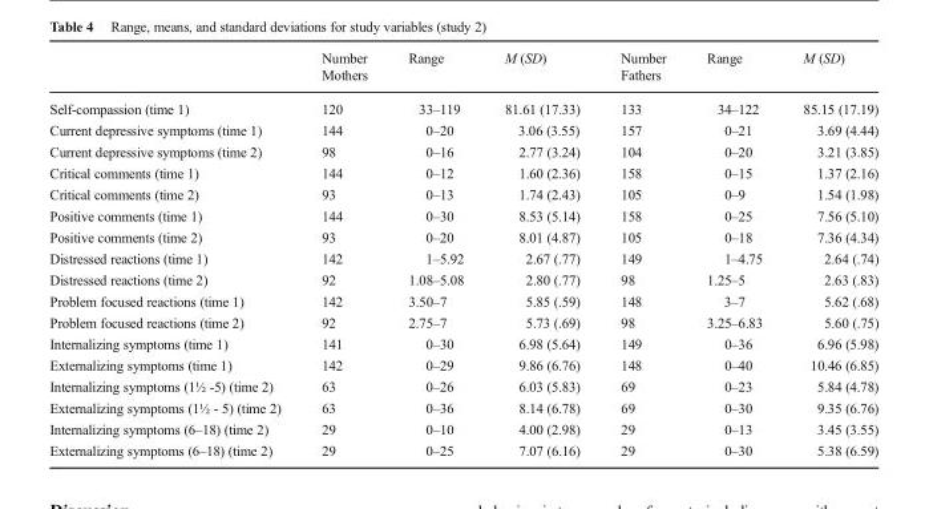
<table><thead><tr><td rowspan="2"></td><td rowspan="2">Number Mothers</td><td rowspan="2">Range</td><td rowspan="2">M (SD)</td><td rowspan="2">Number Fathers</td><td rowspan="2">Range</td><td rowspan="2">M (SD)</td></tr><tr></tr></thead><tbody><tr><td>Self-compassion (time 1)</td><td>120</td><td>33–119</td><td>81.61 (17.33)</td><td>133</td><td>34–122</td><td>85.15 (17.19)</td></tr><tr><td>Current depressive symptoms (time 1)</td><td>144</td><td>0–20</td><td>3.06 (3.55)</td><td>157</td><td>0–21</td><td>3.69 (4.44)</td></tr><tr><td>Current depressive symptoms (time 2)</td><td>98</td><td>0–16</td><td>2.77 (3.24)</td><td>104</td><td>0–20</td><td>3.21 (3.85)</td></tr><tr><td>Critical comments (time 1)</td><td>144</td><td>0–12</td><td>1.60 (2.36)</td><td>158</td><td>0–15</td><td>1.37 (2.16)</td></tr><tr><td>Critical comments (time 2)</td><td>93</td><td>0–13</td><td>1.74 (2.43)</td><td>105</td><td>0–9</td><td>1.54 (1.98)</td></tr><tr><td>Positive comments (time 1)</td><td>144</td><td>0–30</td><td>8.53 (5.14)</td><td>158</td><td>0–25</td><td>7.56 (5.10)</td></tr><tr><td>Positive comments (time 2)</td><td>93</td><td>0–20</td><td>8.01 (4.87)</td><td>105</td><td>0–18</td><td>7.36 (4.34)</td></tr><tr><td>Distressed reactions (time 1)</td><td>142</td><td>1–5.92</td><td>2.67 (.77)</td><td>149</td><td>1–4.75</td><td>2.64 (.74)</td></tr><tr><td>Distressed reactions (time 2)</td><td>92</td><td>1.08–5.08</td><td>2.80 (.77)</td><td>98</td><td>1.25–5</td><td>2.63 (.83)</td></tr><tr><td>Problem focused reactions (time 1)</td><td>142</td><td>3.50–7</td><td>5.85 (.59)</td><td>148</td><td>3–7</td><td>5.62 (.68)</td></tr><tr><td>Problem focused reactions (time 2)</td><td>92</td><td>2.75–7</td><td>5.73 (.69)</td><td>98</td><td>3.25–6.83</td><td>5.60 (.75)</td></tr><tr><td>Internalizing symptoms (time 1)</td><td>141</td><td>0–30</td><td>6.98 (5.64)</td><td>149</td><td>0–36</td><td>6.96 (5.98)</td></tr><tr><td>Externalizing symptoms (time 1)</td><td>142</td><td>0–29</td><td>9.86 (6.76)</td><td>148</td><td>0–40</td><td>10.46 (6.85)</td></tr><tr><td>Internalizing symptoms (1½ -5) (time 2)</td><td>63</td><td>0–26</td><td>6.03 (5.83)</td><td>69</td><td>0–23</td><td>5.84 (4.78)</td></tr><tr><td>Externalizing symptoms (1½ - 5) (time 2)</td><td>63</td><td>0–36</td><td>8.14 (6.78)</td><td>69</td><td>0–30</td><td>9.35 (6.76)</td></tr><tr><td>Internalizing symptoms (6–18) (time 2)</td><td>29</td><td>0–10</td><td>4.00 (2.98)</td><td>29</td><td>0–13</td><td>3.45 (3.55)</td></tr><tr><td>Externalizing symptoms (6–18) (time 2)</td><td>29</td><td>0–25</td><td>7.07 (6.16)</td><td>29</td><td>0–30</td><td>5.38 (6.59)</td></tr></tbody></table>